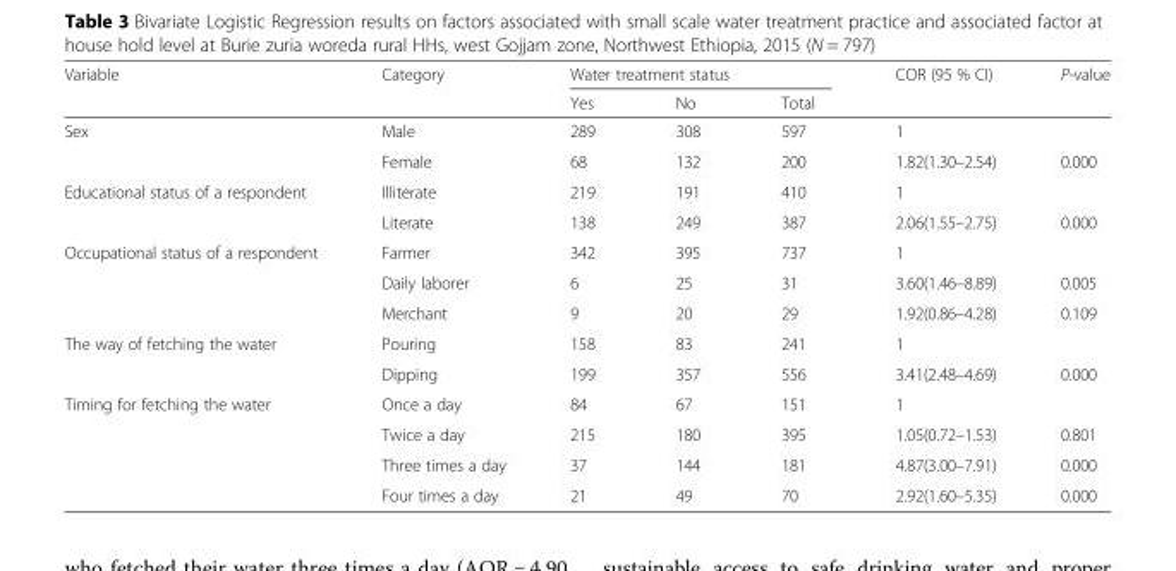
<table><thead><tr><td rowspan="2">Variable</td><td rowspan="2">Category</td><td colspan="3">Water treatment status</td><td rowspan="2">COR (95 % CI)</td><td rowspan="2">P-value</td></tr><tr><td>Yes</td><td>No</td><td>Total</td></tr></thead><tbody><tr><td rowspan="2">Sex</td><td>Male</td><td>289</td><td>308</td><td>597</td><td>1</td><td></td></tr><tr><td>Female</td><td>68</td><td>132</td><td>200</td><td>1.82(1.30–2.54)</td><td>0.000</td></tr><tr><td rowspan="2">Educational status of a respondent</td><td>Illiterate</td><td>219</td><td>191</td><td>410</td><td>1</td><td></td></tr><tr><td>Literate</td><td>138</td><td>249</td><td>387</td><td>2.06(1.55–2.75)</td><td>0.000</td></tr><tr><td rowspan="3">Occupational status of a respondent</td><td>Farmer</td><td>342</td><td>395</td><td>737</td><td>1</td><td></td></tr><tr><td>Daily laborer</td><td>6</td><td>25</td><td>31</td><td>3.60(1.46–8.89)</td><td>0.005</td></tr><tr><td>Merchant</td><td>9</td><td>20</td><td>29</td><td>1.92(0.86–4.28)</td><td>0.109</td></tr><tr><td rowspan="2">The way of fetching the water</td><td>Pouring</td><td>158</td><td>83</td><td>241</td><td>1</td><td></td></tr><tr><td>Dipping</td><td>199</td><td>357</td><td>556</td><td>3.41(2.48–4.69)</td><td>0.000</td></tr><tr><td rowspan="4">Timing for fetching the water</td><td>Once a day</td><td>84</td><td>67</td><td>151</td><td>1</td><td></td></tr><tr><td>Twice a day</td><td>215</td><td>180</td><td>395</td><td>1.05(0.72–1.53)</td><td>0.801</td></tr><tr><td>Three times a day</td><td>37</td><td>144</td><td>181</td><td>4.87(3.00–7.91)</td><td>0.000</td></tr><tr><td>Four times a day</td><td>21</td><td>49</td><td>70</td><td>2.92(1.60–5.35)</td><td>0.000</td></tr></tbody></table>